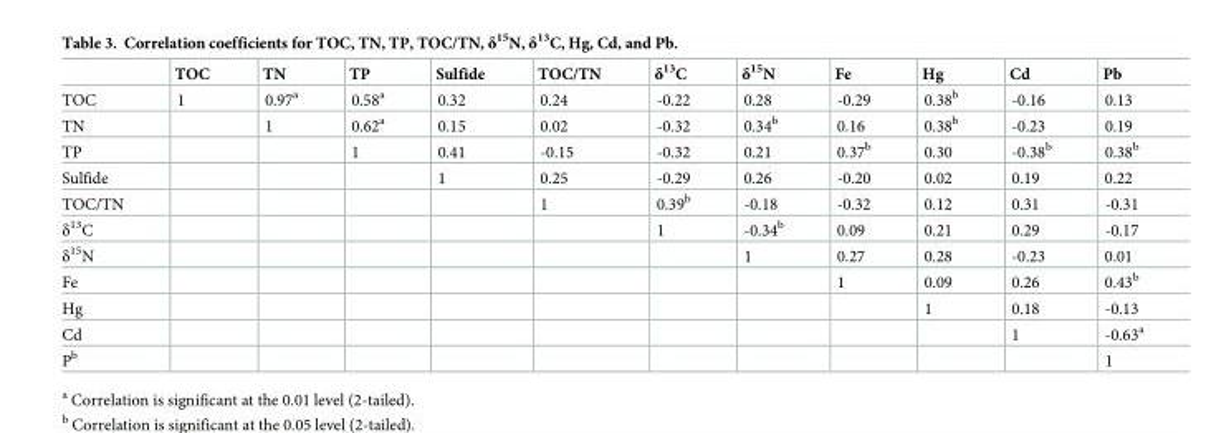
<table><thead><tr><td></td><td>TOC</td><td>TN</td><td>TP</td><td>Sulfide</td><td>TOC/TN</td><td>δ<sup>13</sup>C</td><td>δ<sup>15</sup>N</td><td>Fe</td><td>Hg</td><td>Cd</td><td>Pb</td></tr></thead><tbody><tr><td>TOC</td><td>1</td><td>0.97<sup>a</sup></td><td>0.58<sup>a</sup></td><td>0.32</td><td>0.24</td><td>-0.22</td><td>0.28</td><td>-0.29</td><td>0.38<sup>b</sup></td><td>-0.16</td><td>0.13</td></tr><tr><td>TN</td><td></td><td>1</td><td>0.62<sup>a</sup></td><td>0.15</td><td>0.02</td><td>-0.32</td><td>0.34<sup>b</sup></td><td>0.16</td><td>0.38<sup>b</sup></td><td>-0.23</td><td>0.19</td></tr><tr><td>TP</td><td></td><td></td><td>1</td><td>0.41</td><td>-0.15</td><td>-0.32</td><td>0.21</td><td>0.37<sup>b</sup></td><td>0.30</td><td>-0.38<sup>b</sup></td><td>0.38<sup>b</sup></td></tr><tr><td>Sulfide</td><td></td><td></td><td></td><td>1</td><td>0.25</td><td>-0.29</td><td>0.26</td><td>-0.20</td><td>0.02</td><td>0.19</td><td>0.22</td></tr><tr><td>TOC/TN</td><td></td><td></td><td></td><td></td><td>1</td><td>0.39<sup>b</sup></td><td>-0.18</td><td>-0.32</td><td>0.12</td><td>0.31</td><td>-0.31</td></tr><tr><td>δ<sup>13</sup>C</td><td></td><td></td><td></td><td></td><td></td><td>1</td><td>-0.34<sup>b</sup></td><td>0.09</td><td>0.21</td><td>0.29</td><td>-0.17</td></tr><tr><td>δ<sup>15</sup>N</td><td></td><td></td><td></td><td></td><td></td><td></td><td>1</td><td>0.27</td><td>0.28</td><td>-0.23</td><td>0.01</td></tr><tr><td>Fe</td><td></td><td></td><td></td><td></td><td></td><td></td><td></td><td>1</td><td>0.09</td><td>0.26</td><td>0.43<sup>b</sup></td></tr><tr><td>Hg</td><td></td><td></td><td></td><td></td><td></td><td></td><td></td><td></td><td>1</td><td>0.18</td><td>-0.13</td></tr><tr><td>Cd</td><td></td><td></td><td></td><td></td><td></td><td></td><td></td><td></td><td></td><td>1</td><td>-0.63<sup>a</sup></td></tr><tr><td>P<sup>b</sup></td><td></td><td></td><td></td><td></td><td></td><td></td><td></td><td></td><td></td><td></td><td>1</td></tr></tbody></table>